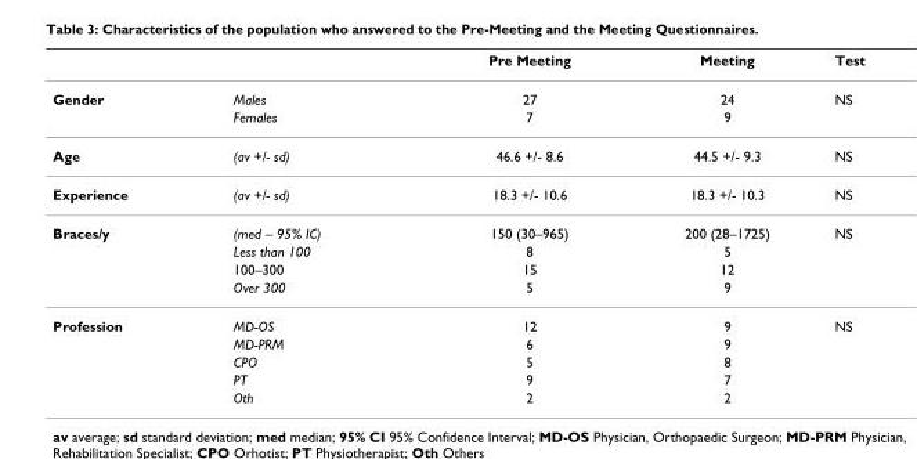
<table><thead><tr><td></td><td></td><td>Pre Meeting</td><td>Meeting</td><td>Test</td></tr></thead><tbody><tr><td rowspan="2">Gender</td><td>Males</td><td>27</td><td>24</td><td>NS</td></tr><tr><td>Females</td><td>7</td><td>9</td><td></td></tr><tr><td>Age</td><td>(av +/- sd)</td><td>46.6 +/- 8.6</td><td>44.5 +/- 9.3</td><td>NS</td></tr><tr><td>Experience</td><td>(av +/- sd)</td><td>18.3 +/- 10.6</td><td>18.3 +/- 10.3</td><td>NS</td></tr><tr><td rowspan="4">Braces/y</td><td>(med – 95% IC)</td><td>150 (30–965)</td><td>200 (28–1725)</td><td>NS</td></tr><tr><td>Less than 100</td><td>8</td><td>5</td><td></td></tr><tr><td>100–300</td><td>15</td><td>12</td><td></td></tr><tr><td>Over 300</td><td>5</td><td>9</td><td></td></tr><tr><td rowspan="5">Profession</td><td>MD-OS</td><td>12</td><td>9</td><td>NS</td></tr><tr><td>MD-PRM</td><td>6</td><td>9</td><td></td></tr><tr><td>CPO</td><td>5</td><td>8</td><td></td></tr><tr><td>PT</td><td>9</td><td>7</td><td></td></tr><tr><td>Oth</td><td>2</td><td>2</td><td></td></tr></tbody></table>